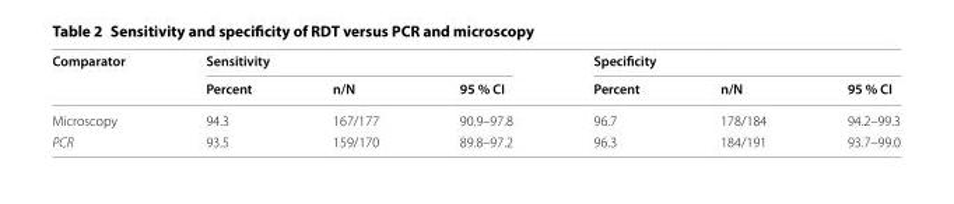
<table><thead><tr><td rowspan="2">Comparator</td><td colspan="3">Sensitivity</td><td colspan="3">Specificity</td></tr><tr><td>Percent</td><td>n/N</td><td>95 % CI</td><td>Percent</td><td>n/N</td><td>95 % CI</td></tr></thead><tbody><tr><td>Microscopy</td><td>94.3</td><td>167/177</td><td>90.9–97.8</td><td>96.7</td><td>178/184</td><td>94.2–99.3</td></tr><tr><td>PCR</td><td>93.5</td><td>159/170</td><td>89.8–97.2</td><td>96.3</td><td>184/191</td><td>93.7–99.0</td></tr></tbody></table>